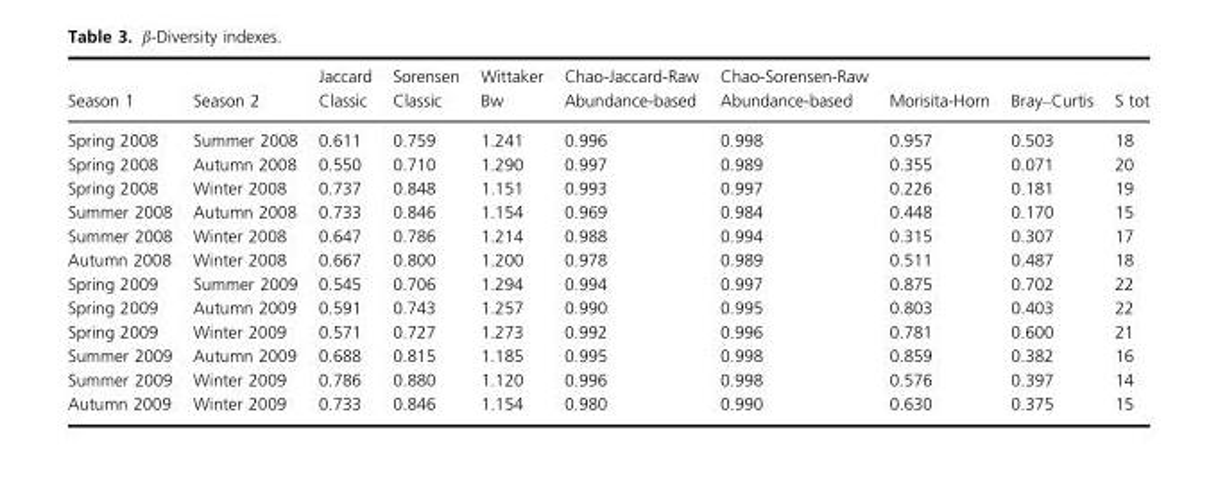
<table><thead><tr><td>Season 1</td><td>Season 2</td><td>Jaccard Classic</td><td>Sorensen Classic</td><td>Wittaker Bw</td><td>Chao-Jaccard-Raw Abundance-based</td><td>Chao-Sorensen-Raw Abundance-based</td><td>Morisita-Horn</td><td>Bray–Curtis</td><td>S tot</td></tr></thead><tbody><tr><td>Spring 2008</td><td>Summer 2008</td><td>0.611</td><td>0.759</td><td>1.241</td><td>0.996</td><td>0.998</td><td>0.957</td><td>0.503</td><td>18</td></tr><tr><td>Spring 2008</td><td>Autumn 2008</td><td>0.550</td><td>0.710</td><td>1.290</td><td>0.997</td><td>0.989</td><td>0.355</td><td>0.071</td><td>20</td></tr><tr><td>Spring 2008</td><td>Winter 2008</td><td>0.737</td><td>0.848</td><td>1.151</td><td>0.993</td><td>0.997</td><td>0.226</td><td>0.181</td><td>19</td></tr><tr><td>Summer 2008</td><td>Autumn 2008</td><td>0.733</td><td>0.846</td><td>1.154</td><td>0.969</td><td>0.984</td><td>0.448</td><td>0.170</td><td>15</td></tr><tr><td>Summer 2008</td><td>Winter 2008</td><td>0.647</td><td>0.786</td><td>1.214</td><td>0.988</td><td>0.994</td><td>0.315</td><td>0.307</td><td>17</td></tr><tr><td>Autumn 2008</td><td>Winter 2008</td><td>0.667</td><td>0.800</td><td>1.200</td><td>0.978</td><td>0.989</td><td>0.511</td><td>0.487</td><td>18</td></tr><tr><td>Spring 2009</td><td>Summer 2009</td><td>0.545</td><td>0.706</td><td>1.294</td><td>0.994</td><td>0.997</td><td>0.875</td><td>0.702</td><td>22</td></tr><tr><td>Spring 2009</td><td>Autumn 2009</td><td>0.591</td><td>0.743</td><td>1.257</td><td>0.990</td><td>0.995</td><td>0.803</td><td>0.403</td><td>22</td></tr><tr><td>Spring 2009</td><td>Winter 2009</td><td>0.571</td><td>0.727</td><td>1.273</td><td>0.992</td><td>0.996</td><td>0.781</td><td>0.600</td><td>21</td></tr><tr><td>Summer 2009</td><td>Autumn 2009</td><td>0.688</td><td>0.815</td><td>1.185</td><td>0.995</td><td>0.998</td><td>0.859</td><td>0.382</td><td>16</td></tr><tr><td>Summer 2009</td><td>Winter 2009</td><td>0.786</td><td>0.880</td><td>1.120</td><td>0.996</td><td>0.998</td><td>0.576</td><td>0.397</td><td>14</td></tr><tr><td>Autumn 2009</td><td>Winter 2009</td><td>0.733</td><td>0.846</td><td>1.154</td><td>0.980</td><td>0.990</td><td>0.630</td><td>0.375</td><td>15</td></tr></tbody></table>